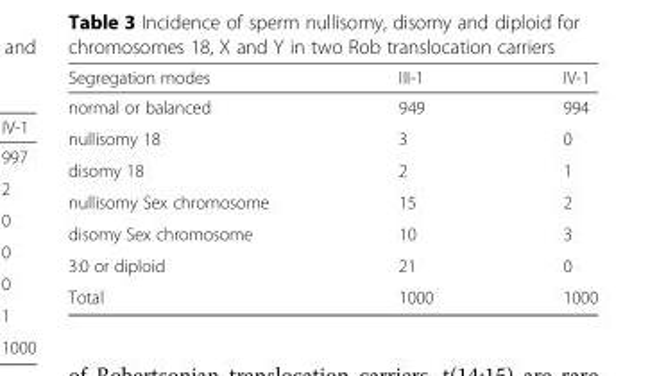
<table><thead><tr><td>Segregation modes</td><td>III-1</td><td>IV-1</td></tr></thead><tbody><tr><td>normal or balanced</td><td>949</td><td>994</td></tr><tr><td>nullisomy 18</td><td>3</td><td>0</td></tr><tr><td>disomy 18</td><td>2</td><td>1</td></tr><tr><td>nullisomy Sex chromosome</td><td>15</td><td>2</td></tr><tr><td>disomy Sex chromosome</td><td>10</td><td>3</td></tr><tr><td>3:0 or diploid</td><td>21</td><td>0</td></tr><tr><td>Total</td><td>1000</td><td>1000</td></tr></tbody></table>